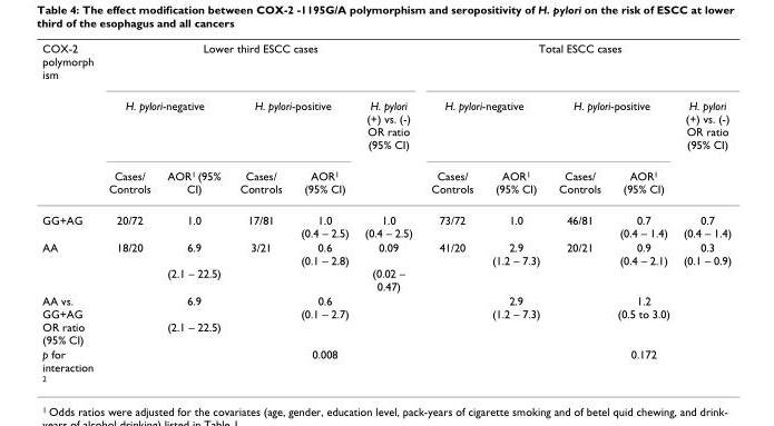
<table><thead><tr><td rowspan="3">COX-2 polymorph ism</td><td colspan="5">Lower third ESCC cases</td><td colspan="5">Total ESCC cases</td></tr><tr><td colspan="2">H. pylori-negative</td><td colspan="2">H. pylori-positive</td><td rowspan="2">H. pylori (+) vs. (-) OR ratio (95% CI)</td><td colspan="2">H. pylori-negative</td><td colspan="2">H. pylori-positive</td><td rowspan="2">H. pylori (+) vs. (-) OR ratio (95% CI)</td></tr><tr><td>Cases/ Controls</td><td>AOR<sup>1</sup> (95% CI)</td><td>Cases/ Controls</td><td>AOR<sup>1</sup> (95% CI)</td><td>Cases/ Controls</td><td>AOR<sup>1</sup> (95% CI)</td><td>Cases/ Controls</td><td>AOR<sup>1</sup> (95% CI)</td></tr></thead><tbody><tr><td>GG+AG</td><td>20/72</td><td>1.0</td><td>17/81</td><td>1.0 (0.4 – 2.5)</td><td>1.0 (0.4 – 2.5)</td><td>73/72</td><td>1.0</td><td>46/81</td><td>0.7 (0.4 – 1.4)</td><td>0.7 (0.4 – 1.4)</td></tr><tr><td>AA</td><td>18/20</td><td>6.9 (2.1 – 22.5)</td><td>3/21</td><td>0.6 (0.1 – 2.8)</td><td>0.09 (0.02 – 0.47)</td><td>41/20</td><td>2.9 (1.2 – 7.3)</td><td>20/21</td><td>0.9 (0.4 – 2.1)</td><td>0.3 (0.1 – 0.9)</td></tr><tr><td>AA vs. GG+AG OR ratio (95% CI)</td><td></td><td>6.9 (2.1 – 22.5)</td><td></td><td>0.6 (0.1 – 2.7)</td><td></td><td></td><td>2.9 (1.2 – 7.3)</td><td></td><td>1.2 (0.5 to 3.0)</td><td></td></tr><tr><td>p for interaction <sup>2</sup></td><td></td><td></td><td></td><td>0.008</td><td></td><td></td><td></td><td></td><td>0.172</td><td></td></tr></tbody></table>